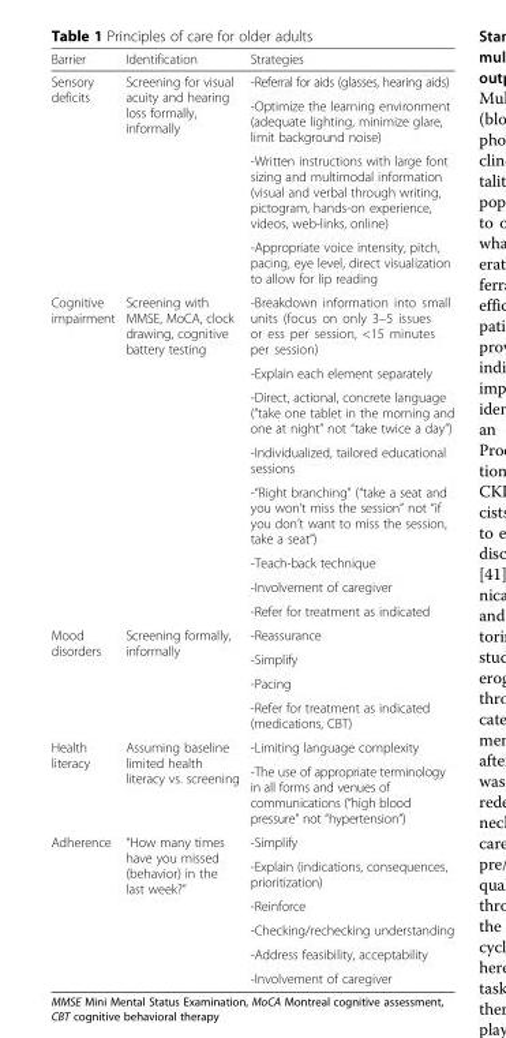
<table><thead><tr><td>Barrier</td><td>Identification</td><td>Strategies</td></tr></thead><tbody><tr><td rowspan="4">Sensory deficits</td><td rowspan="4">Screening for visual acuity and hearing loss formally, informally</td><td>-Referral for aids (glasses, hearing aids)</td></tr><tr><td>-Optimize the learning environment (adequate lighting, minimize glare, limit background noise)</td></tr><tr><td>-Written instructions with large font sizing and multimodal information (visual and verbal through writing, pictogram, hands-on experience, videos, web-links, online)</td></tr><tr><td>-Appropriate voice intensity, pitch, pacing, eye level, direct visualization to allow for lip reading</td></tr><tr><td rowspan="8">Cognitive impairment</td><td rowspan="8">Screening with MMSE, MoCA, clock drawing, cognitive battery testing</td><td>-Breakdown information into small units (focus on only 3–5 issues or ess per session, &lt;15 minutes per session)</td></tr><tr><td>-Explain each element separately</td></tr><tr><td>-Direct, actional, concrete language (“take one tablet in the morning and one at night” not “take twice a day”)</td></tr><tr><td>-Individualized, tailored educational sessions</td></tr><tr><td>-“Right branching” (“take a seat and you won’t miss the session” not “if you don’t want to miss the session, take a seat”)</td></tr><tr><td>-Teach-back technique</td></tr><tr><td>-Involvement of caregiver</td></tr><tr><td>-Refer for treatment as indicated</td></tr><tr><td rowspan="4">Mood disorders</td><td rowspan="4">Screening formally, informally</td><td>-Reassurance</td></tr><tr><td>-Simplify</td></tr><tr><td>-Pacing</td></tr><tr><td>-Refer for treatment as indicated (medications, CBT)</td></tr><tr><td rowspan="2">Health literacy</td><td rowspan="2">Assuming baseline limited health literacy vs. screening</td><td>-Limiting language complexity</td></tr><tr><td>-The use of appropriate terminology in all forms and venues of communications (“high blood pressure” not “hypertension”)</td></tr><tr><td rowspan="6">Adherence</td><td rowspan="6">“How many times have you missed (behavior) in the last week?”</td><td>-Simplify</td></tr><tr><td>-Explain (indications, consequences, prioritization)</td></tr><tr><td>-Reinforce</td></tr><tr><td>-Checking/rechecking understanding</td></tr><tr><td>-Address feasibility, acceptability</td></tr><tr><td>-Involvement of caregiver</td></tr></tbody></table>